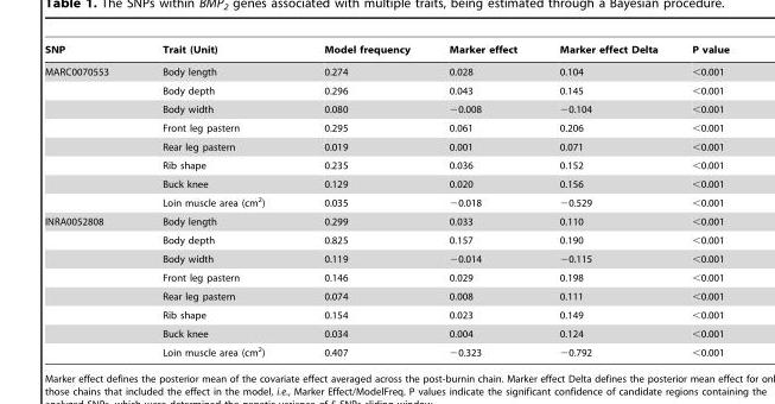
<table><thead><tr><td>SNP</td><td>Trait (Unit)</td><td>Model frequency</td><td>Marker effect</td><td>Marker effect Delta</td><td>P value</td></tr></thead><tbody><tr><td rowspan="8">MARC0070553</td><td>Body length</td><td>0.274</td><td>0.028</td><td>0.104</td><td>&lt;0.001</td></tr><tr><td>Body depth</td><td>0.296</td><td>0.043</td><td>0.145</td><td>&lt;0.001</td></tr><tr><td>Body width</td><td>0.080</td><td>−0.008</td><td>−0.104</td><td>&lt;0.001</td></tr><tr><td>Front leg pastern</td><td>0.295</td><td>0.061</td><td>0.206</td><td>&lt;0.001</td></tr><tr><td>Rear leg pastern</td><td>0.019</td><td>0.001</td><td>0.071</td><td>&lt;0.001</td></tr><tr><td>Rib shape</td><td>0.235</td><td>0.036</td><td>0.152</td><td>&lt;0.001</td></tr><tr><td>Buck knee</td><td>0.129</td><td>0.020</td><td>0.156</td><td>&lt;0.001</td></tr><tr><td>Loin muscle area (cm<sup>2</sup>)</td><td>0.035</td><td>−0.018</td><td>−0.529</td><td>&lt;0.001</td></tr><tr><td rowspan="8">INRA0052808</td><td>Body length</td><td>0.299</td><td>0.033</td><td>0.110</td><td>&lt;0.001</td></tr><tr><td>Body depth</td><td>0.825</td><td>0.157</td><td>0.190</td><td>&lt;0.001</td></tr><tr><td>Body width</td><td>0.119</td><td>−0.014</td><td>−0.115</td><td>&lt;0.001</td></tr><tr><td>Front leg pastern</td><td>0.146</td><td>0.029</td><td>0.198</td><td>&lt;0.001</td></tr><tr><td>Rear leg pastern</td><td>0.074</td><td>0.008</td><td>0.111</td><td>&lt;0.001</td></tr><tr><td>Rib shape</td><td>0.154</td><td>0.023</td><td>0.149</td><td>&lt;0.001</td></tr><tr><td>Buck knee</td><td>0.034</td><td>0.004</td><td>0.124</td><td>&lt;0.001</td></tr><tr><td>Loin muscle area (cm<sup>2</sup>)</td><td>0.407</td><td>−0.323</td><td>−0.792</td><td>&lt;0.001</td></tr></tbody></table>